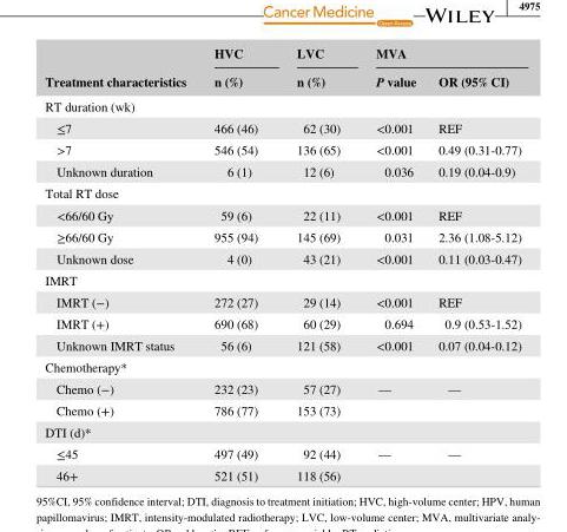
<table><thead><tr><td rowspan="2">Treatment characteristics</td><td rowspan="2">HVC n (%)</td><td rowspan="2">LVC n (%)</td><td colspan="2">MVA</td></tr><tr><td>P value</td><td>OR (95% CI)</td></tr></thead><tbody><tr><td colspan="5">RT duration (wk)</td></tr><tr><td>≤7</td><td>466 (46)</td><td>62 (30)</td><td>&lt;0.001</td><td>REF</td></tr><tr><td>&gt;7</td><td>546 (54)</td><td>136 (65)</td><td>&lt;0.001</td><td>0.49 (0.31- 0.77)</td></tr><tr><td>Unknown duration</td><td>6 (1)</td><td>12 (6)</td><td>0.036</td><td>0.19 (0.04- 0.9)</td></tr><tr><td colspan="5">Total RT dose</td></tr><tr><td>&lt;66/60 Gy</td><td>59 (6)</td><td>22 (11)</td><td>&lt;0.001</td><td>REF</td></tr><tr><td>≥66/60 Gy</td><td>955 (94)</td><td>145 (69)</td><td>0.031</td><td>2.36 (1.08- 5.12)</td></tr><tr><td>Unknown dose</td><td>4 (0)</td><td>43 (21)</td><td>&lt;0.001</td><td>0.11 (0.03- 0.47)</td></tr><tr><td colspan="5">IMRT</td></tr><tr><td>IMRT (−)</td><td>272 (27)</td><td>29 (14)</td><td>&lt;0.001</td><td>REF</td></tr><tr><td>IMRT (+)</td><td>690 (68)</td><td>60 (29)</td><td>0.694</td><td>0.9 (0.53- 1.52)</td></tr><tr><td>Unknown IMRT status</td><td>56 (6)</td><td>121 (58)</td><td>&lt;0.001</td><td>0.07 (0.04- 0.12)</td></tr><tr><td colspan="5">Chemotherapy*</td></tr><tr><td>Chemo (−)</td><td>232 (23)</td><td>57 (27)</td><td>—</td><td>—</td></tr><tr><td>Chemo (+)</td><td>786 (77)</td><td>153 (73)</td><td></td><td></td></tr><tr><td colspan="5">DTI (d)*</td></tr><tr><td>≤45</td><td>497 (49)</td><td>92 (44)</td><td>—</td><td>—</td></tr><tr><td>46+</td><td>521 (51)</td><td>118 (56)</td><td></td><td></td></tr></tbody></table>